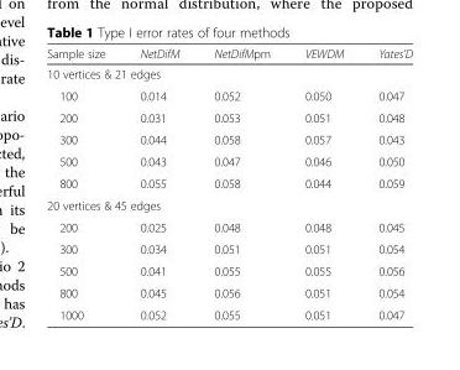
<table><thead><tr><td>Sample size</td><td>NetDifM</td><td>NetDifMpm</td><td>VEWDM</td><td>Yates’D</td></tr></thead><tbody><tr><td colspan="5">10 vertices &amp; 21 edges</td></tr><tr><td>100</td><td>0.014</td><td>0.052</td><td>0.050</td><td>0.047</td></tr><tr><td>200</td><td>0.031</td><td>0.053</td><td>0.051</td><td>0.048</td></tr><tr><td>300</td><td>0.044</td><td>0.058</td><td>0.057</td><td>0.043</td></tr><tr><td>500</td><td>0.043</td><td>0.047</td><td>0.046</td><td>0.050</td></tr><tr><td>800</td><td>0.055</td><td>0.058</td><td>0.044</td><td>0.059</td></tr><tr><td colspan="5">20 vertices &amp; 45 edges</td></tr><tr><td>200</td><td>0.025</td><td>0.048</td><td>0.048</td><td>0.045</td></tr><tr><td>300</td><td>0.034</td><td>0.051</td><td>0.051</td><td>0.054</td></tr><tr><td>500</td><td>0.041</td><td>0.055</td><td>0.055</td><td>0.056</td></tr><tr><td>800</td><td>0.045</td><td>0.056</td><td>0.051</td><td>0.054</td></tr><tr><td>1000</td><td>0.052</td><td>0.055</td><td>0.051</td><td>0.047</td></tr></tbody></table>